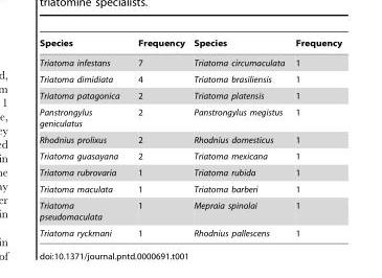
<table><thead><tr><td>Species</td><td>Frequency</td><td>Species</td><td>Frequency</td></tr></thead><tbody><tr><td>Triatoma infestans</td><td>7</td><td>Triatoma circumaculata</td><td>1</td></tr><tr><td>Triatoma dimidiata</td><td>4</td><td>Triatoma brasiliensis</td><td>1</td></tr><tr><td>Triatoma patagonica</td><td>2</td><td>Triatoma platensis</td><td>1</td></tr><tr><td>Panstrongylus geniculatus</td><td>2</td><td>Panstrongylus megistus</td><td>1</td></tr><tr><td>Rhodnius prolixus</td><td>2</td><td>Rhodnius domesticus</td><td>1</td></tr><tr><td>Triatoma guasayana</td><td>2</td><td>Triatoma mexicana</td><td>1</td></tr><tr><td>Triatoma rubrovaria</td><td>1</td><td>Triatoma rubida</td><td>1</td></tr><tr><td>Triatoma maculata</td><td>1</td><td>Triatoma barberi</td><td>1</td></tr><tr><td>Triatoma pseudomaculata</td><td>1</td><td>Mepraia spinolai</td><td>1</td></tr><tr><td>Triatoma ryckmani</td><td>1</td><td>Rhodnius pallescens</td><td>1</td></tr></tbody></table>